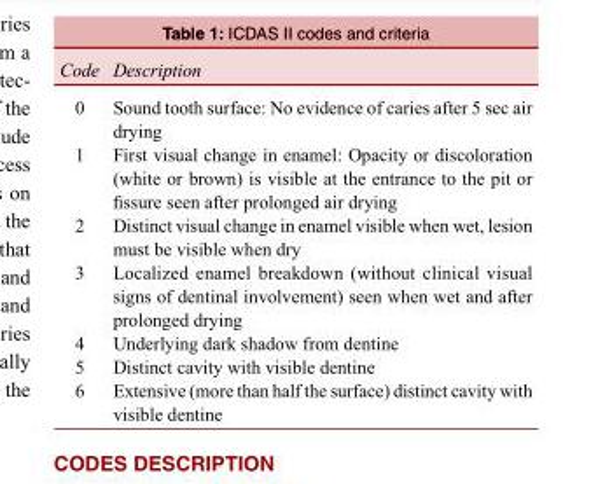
<table><tbody><tr><td>Code</td><td>Description</td></tr><tr><td>0</td><td>Sound tooth surface: No evidence of caries after 5 sec air drying</td></tr><tr><td>1</td><td>First visual change in enamel: Opacity or discoloration (white or brown) is visible at the entrance to the pit or fissure seen after prolonged air drying</td></tr><tr><td>2</td><td>Distinct visual change in enamel visible when wet, lesion must be visible when dry</td></tr><tr><td>3</td><td>Localized enamel breakdown (without clinical visual signs of dentinal involvement) seen when wet and after prolonged drying</td></tr><tr><td>4</td><td>Underlying dark shadow from dentine</td></tr><tr><td>5</td><td>Distinct cavity with visible dentine</td></tr><tr><td>6</td><td>Extensive (more than half the surface) distinct cavity with visible dentine</td></tr></tbody></table>